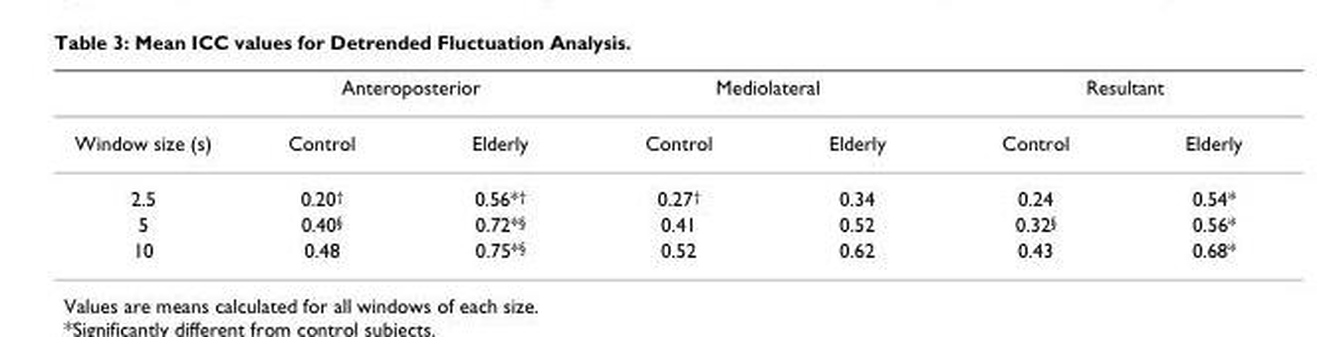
<table><thead><tr><td rowspan="2">Window size (s)</td><td colspan="2">Anteroposterior</td><td colspan="2">Mediolateral</td><td colspan="2">Resultant</td></tr><tr><td>Control</td><td>Elderly</td><td>Control</td><td>Elderly</td><td>Control</td><td>Elderly</td></tr></thead><tbody><tr><td>2.5</td><td>0.20<sup>†</sup></td><td>0.56*<sup>†</sup></td><td>0.27<sup>†</sup></td><td>0.34</td><td>0.24</td><td>0.54*</td></tr><tr><td>5</td><td>0.40<sup>§</sup></td><td>0.72*<sup>§</sup></td><td>0.41</td><td>0.52</td><td>0.32<sup>§</sup></td><td>0.56*</td></tr><tr><td>10</td><td>0.48</td><td>0.75*<sup>§</sup></td><td>0.52</td><td>0.62</td><td>0.43</td><td>0.68*</td></tr></tbody></table>